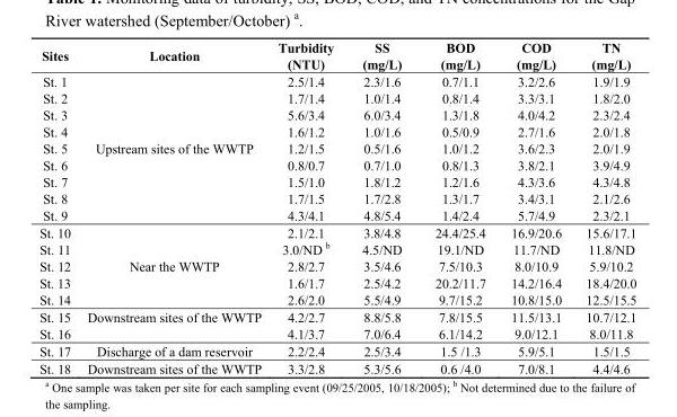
<table><thead><tr><td>Sites</td><td>Location</td><td>Turbidity (NTU)</td><td>SS (mg/L)</td><td>BOD (mg/L)</td><td>COD (mg/L)</td><td>TN (mg/L)</td></tr></thead><tbody><tr><td>St. 1</td><td></td><td>2.5/1.4</td><td>2.3/1.6</td><td>0.7/1.1</td><td>3.2/2.6</td><td>1.9/1.9</td></tr><tr><td>St. 2</td><td></td><td>1.7/1.4</td><td>1.0/1.4</td><td>0.8/1.4</td><td>3.3/3.1</td><td>1.8/2.0</td></tr><tr><td>St. 3</td><td></td><td>5.6/3.4</td><td>6.0/3.4</td><td>1.3/1.8</td><td>4.0/4.2</td><td>2.3/2.4</td></tr><tr><td>St. 4</td><td></td><td>1.6/1.2</td><td>1.0/1.6</td><td>0.5/0.9</td><td>2.7/1.6</td><td>2.0/1.8</td></tr><tr><td>St. 5</td><td>Upstream sites of the WWTP</td><td>1.2/1.5</td><td>0.5/1.6</td><td>1.0/1.2</td><td>3.6/2.3</td><td>2.0/1.9</td></tr><tr><td>St. 6</td><td></td><td>0.8/0.7</td><td>0.7/1.0</td><td>0.8/1.3</td><td>3.8/2.1</td><td>3.9/4.9</td></tr><tr><td>St. 7</td><td></td><td>1.5/1.0</td><td>1.8/1.2</td><td>1.2/1.6</td><td>4.3/3.6</td><td>4.3/4.8</td></tr><tr><td>St. 8</td><td></td><td>1.7/1.5</td><td>1.7/2.8</td><td>1.3/1.7</td><td>3.4/3.1</td><td>2.1/2.6</td></tr><tr><td>St. 9</td><td></td><td>4.3/4.1</td><td>4.8/5.4</td><td>1.4/2.4</td><td>5.7/4.9</td><td>2.3/2.1</td></tr><tr><td>St. 10</td><td></td><td>2.1/2.1</td><td>3.8/4.8</td><td>24.4/25.4</td><td>16.9/20.6</td><td>15.6/17.1</td></tr><tr><td>St. 11</td><td></td><td>3.0/ND <sup>b</sup></td><td>4.5/ND</td><td>19.1/ND</td><td>11.7/ND</td><td>11.8/ND</td></tr><tr><td>St. 12</td><td>Near the WWTP</td><td>2.8/2.7</td><td>3.5/4.6</td><td>7.5/10.3</td><td>8.0/10.9</td><td>5.9/10.2</td></tr><tr><td>St. 13</td><td></td><td>1.6/1.7</td><td>2.5/4.2</td><td>20.2/11.7</td><td>14.2/16.4</td><td>18.4/20.0</td></tr><tr><td>St. 14</td><td></td><td>2.6/2.0</td><td>5.5/4.9</td><td>9.7/15.2</td><td>10.8/15.0</td><td>12.5/15.5</td></tr><tr><td>St. 15</td><td>Downstream sites of the WWTP</td><td>4.2/2.7</td><td>8.8/5.8</td><td>7.8/15.5</td><td>11.5/13.1</td><td>10.7/12.1</td></tr><tr><td>St. 16</td><td></td><td>4.1/3.7</td><td>7.0/6.4</td><td>6.1/14.2</td><td>9.0/12.1</td><td>8.0/11.8</td></tr><tr><td>St. 17</td><td>Discharge of a dam reservoir</td><td>2.2/2.4</td><td>2.5/3.4</td><td>1.5 /1.3</td><td>5.9/5.1</td><td>1.5/1.5</td></tr><tr><td>St. 18</td><td>Downstream sites of the WWTP</td><td>3.3/2.8</td><td>5.3/5.6</td><td>0.6 /4.0</td><td>7.0/8.1</td><td>4.4/4.6</td></tr></tbody></table>